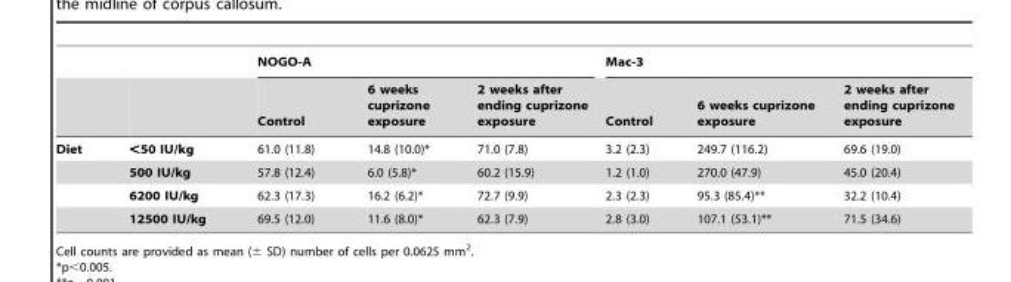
<table><thead><tr><td rowspan="2"></td><td rowspan="2"></td><td colspan="3">NOGO-A</td><td colspan="3">Mac-3</td></tr><tr><td>Control</td><td>6 weeks cuprizone exposure</td><td>2 weeks after ending cuprizone exposure</td><td>Control</td><td>6 weeks cuprizone exposure</td><td>2 weeks after ending cuprizone exposure</td></tr></thead><tbody><tr><td rowspan="4">Diet</td><td>&lt;50 IU/kg</td><td>61.0 (11.8)</td><td>14.8 (10.0)*</td><td>71.0 (7.8)</td><td>3.2 (2.3)</td><td>249.7 (116.2)</td><td>69.6 (19.0)</td></tr><tr><td>500 IU/kg</td><td>57.8 (12.4)</td><td>6.0 (5.8)*</td><td>60.2 (15.9)</td><td>1.2 (1.0)</td><td>270.0 (47.9)</td><td>45.0 (20.4)</td></tr><tr><td>6200 IU/kg</td><td>62.3 (17.3)</td><td>16.2 (6.2)*</td><td>72.7 (9.9)</td><td>2.3 (2.3)</td><td>95.3 (85.4)**</td><td>32.2 (10.4)</td></tr><tr><td>12500 IU/kg</td><td>69.5 (12.0)</td><td>11.6 (8.0)*</td><td>62.3 (7.9)</td><td>2.8 (3.0)</td><td>107.1 (53.1)**</td><td>71.5 (34.6)</td></tr></tbody></table>